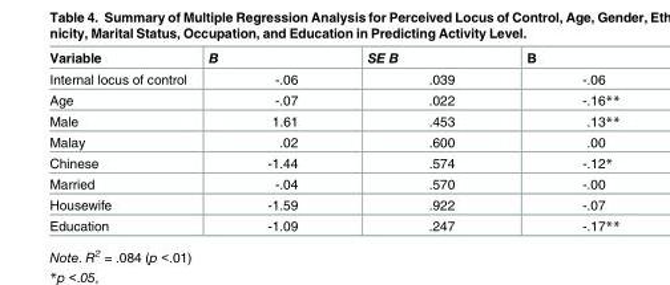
<table><thead><tr><td>Variable</td><td>B</td><td>SE B</td><td>B</td></tr></thead><tbody><tr><td>Internal locus of control</td><td>-.06</td><td>.039</td><td>-.06</td></tr><tr><td>Age</td><td>-.07</td><td>.022</td><td>-.16**</td></tr><tr><td>Male</td><td>1.61</td><td>.453</td><td>.13**</td></tr><tr><td>Malay</td><td>.02</td><td>.600</td><td>.00</td></tr><tr><td>Chinese</td><td>-1.44</td><td>.574</td><td>-.12*</td></tr><tr><td>Married</td><td>-.04</td><td>.570</td><td>-.00</td></tr><tr><td>Housewife</td><td>-1.59</td><td>.922</td><td>-.07</td></tr><tr><td>Education</td><td>-1.09</td><td>.247</td><td>-.17**</td></tr></tbody></table>